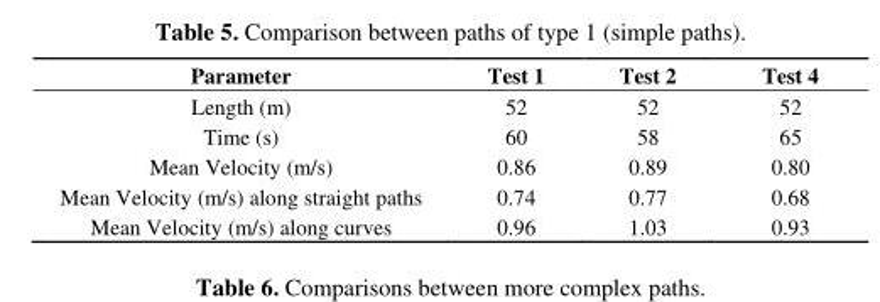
<table><thead><tr><td>Parameter</td><td>Test 1</td><td>Test 2</td><td>Test 4</td></tr></thead><tbody><tr><td>Length (m)</td><td>52</td><td>52</td><td>52</td></tr><tr><td>Time (s)</td><td>60</td><td>58</td><td>65</td></tr><tr><td>Mean Velocity (m/s)</td><td>0.86</td><td>0.89</td><td>0.80</td></tr><tr><td>Mean Velocity (m/s) along straight paths</td><td>0.74</td><td>0.77</td><td>0.68</td></tr><tr><td>Mean Velocity (m/s) along curves</td><td>0.96</td><td>1.03</td><td>0.93</td></tr></tbody></table>